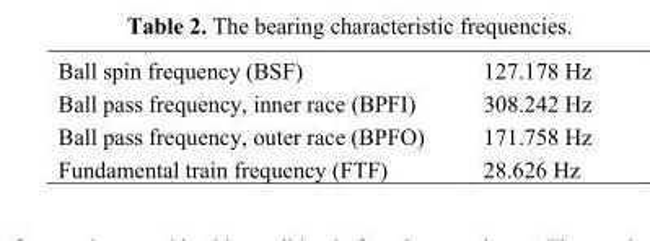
<table><tbody><tr><td>Ball spin frequency (BSF)</td><td>127.178 Hz</td></tr><tr><td>Ball pass frequency, inner race (BPFI)</td><td>308.242 Hz</td></tr><tr><td>Ball pass frequency, outer race (BPFO)</td><td>171.758 Hz</td></tr><tr><td>Fundamental train frequency (FTF)</td><td>28.626 Hz</td></tr></tbody></table>